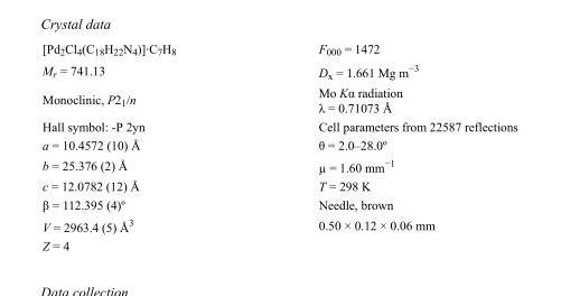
<table><tbody><tr><td>[Pd<sub>2</sub>Cl<sub>4</sub>(C<sub>18</sub>H<sub>22</sub>N<sub>4</sub>)]·C<sub>7</sub>H<sub>8</sub></td><td>F000 = 1472</td></tr><tr><td>M<sub>r</sub> = 741.13</td><td>D<sub>x</sub> = 1.661 Mg m<sup>−3</sup></td></tr><tr><td>Monoclinic, P2<sub>1</sub>/n</td><td>Mo Kα radiation λ = 0.71073 Å</td></tr><tr><td>Hall symbol: -P 2yn</td><td>Cell parameters from 22587 reflections</td></tr><tr><td>a = 10.4572 (10) Å</td><td>θ = 2.0–28.0º</td></tr><tr><td>b = 25.376 (2) Å</td><td>µ = 1.60 mm<sup>−1</sup></td></tr><tr><td>c = 12.0782 (12) Å</td><td>T = 298 K</td></tr><tr><td>β = 112.395 (4)º</td><td>Needle, brown</td></tr><tr><td>V = 2963.4 (5) Å<sup>3</sup></td><td>0.50 × 0.12 × 0.06 mm</td></tr><tr><td>Z = 4</td><td></td></tr></tbody></table>